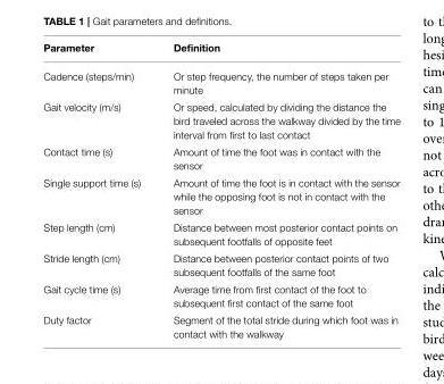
<table><thead><tr><td>Parameter</td><td>Definition</td></tr></thead><tbody><tr><td>Cadence (steps/min)</td><td>Or step frequency, the number of steps taken per minute</td></tr><tr><td>Gait velocity (m/s)</td><td>Or speed, calculated by dividing the distance the bird traveled across the walkway divided by the time interval from first to last contact</td></tr><tr><td>Contact time (s)</td><td>Amount of time the foot was in contact with the sensor</td></tr><tr><td>Single support time (s)</td><td>Amount of time the foot is in contact with the sensor while the opposing foot is not in contact with the sensor</td></tr><tr><td>Step length (cm)</td><td>Distance between most posterior contact points on subsequent footfalls of opposite feet</td></tr><tr><td>Stride length (cm)</td><td>Distance between posterior contact points of two subsequent footfalls of the same foot</td></tr><tr><td>Gait cycle time (s)</td><td>Average time from first contact of the foot to subsequent first contact of the same foot</td></tr><tr><td>Duty factor</td><td>Segment of the total stride during which foot was in contact with the walkway</td></tr></tbody></table>